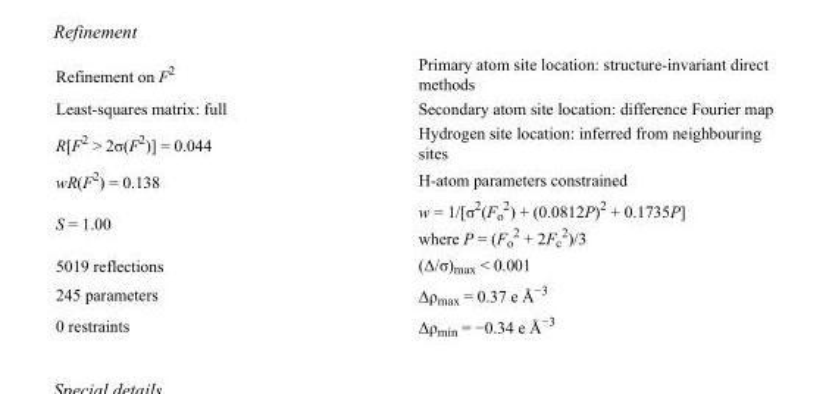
<table><tbody><tr><td>Refinement on F<sup>2</sup></td><td>Primary atom site location: structure-invariant direct methods</td></tr><tr><td>Least-squares matrix: full</td><td>Secondary atom site location: difference Fourier map</td></tr><tr><td>R[F<sup>2</sup> &gt; 2σ(F<sup>2</sup>)] = 0.044</td><td>Hydrogen site location: inferred from neighbouring sites</td></tr><tr><td>wR(F<sup>2</sup>) = 0.138</td><td>H-atom parameters constrained</td></tr><tr><td>S = 1.00</td><td>w = 1/[σ<sup>2</sup>(F<sub>o</sub> <sup>2</sup>) + (0.0812P)<sup>2</sup> + 0.1735P] where P = (F<sub>o</sub> <sup>2</sup> + 2F<sub>c</sub> <sup>2</sup>)/3</td></tr><tr><td>5019 reflections</td><td>(Δ/σ)<sub>max</sub> &lt; 0.001</td></tr><tr><td>245 parameters</td><td>Δρ<sub>max</sub> = 0.37 e Å<sup>−3</sup></td></tr><tr><td>0 restraints</td><td>Δρ<sub>min</sub> = −0.34 e Å<sup>−3</sup></td></tr></tbody></table>